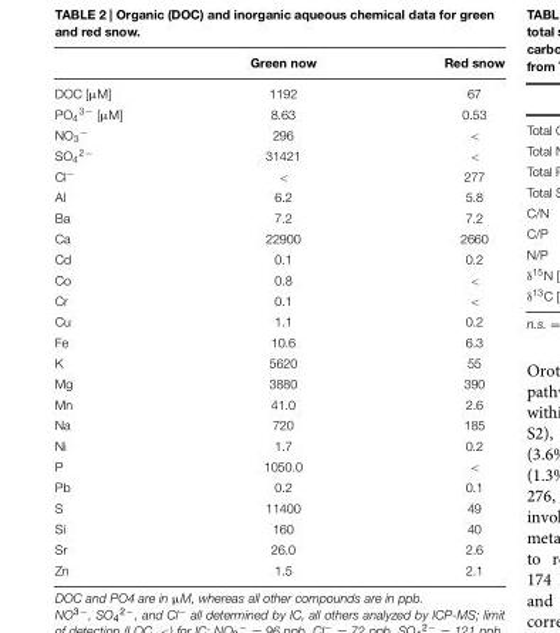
<table><thead><tr><td></td><td>Green now</td><td>Red snow</td></tr></thead><tbody><tr><td>DOC [μM]</td><td>1192</td><td>67</td></tr><tr><td>PO<sub>4</sub><sup>3−</sup> [μM]</td><td>8.63</td><td>0.53</td></tr><tr><td>NO<sub>3</sub><sup>−</sup></td><td>296</td><td>&lt;</td></tr><tr><td>SO<sub>4</sub><sup>2−</sup></td><td>31421</td><td>&lt;</td></tr><tr><td>Cl<sup>−</sup></td><td>&lt;</td><td>277</td></tr><tr><td>Al</td><td>6.2</td><td>5.8</td></tr><tr><td>Ba</td><td>7.2</td><td>7.2</td></tr><tr><td>Ca</td><td>22900</td><td>2660</td></tr><tr><td>Cd</td><td>0.1</td><td>0.2</td></tr><tr><td>Co</td><td>0.8</td><td>&lt;</td></tr><tr><td>Cr</td><td>0.1</td><td>&lt;</td></tr><tr><td>Cu</td><td>1.1</td><td>0.2</td></tr><tr><td>Fe</td><td>10.6</td><td>6.3</td></tr><tr><td>K</td><td>5620</td><td>55</td></tr><tr><td>Mg</td><td>3880</td><td>390</td></tr><tr><td>Mn</td><td>41.0</td><td>2.6</td></tr><tr><td>Na</td><td>720</td><td>185</td></tr><tr><td>Ni</td><td>1.7</td><td>0.2</td></tr><tr><td>P</td><td>1050.0</td><td>&lt;</td></tr><tr><td>Pb</td><td>0.2</td><td>0.1</td></tr><tr><td>S</td><td>11400</td><td>49</td></tr><tr><td>Si</td><td>160</td><td>40</td></tr><tr><td>Sr</td><td>26.0</td><td>2.6</td></tr><tr><td>Zn</td><td>1.5</td><td>2.1</td></tr></tbody></table>